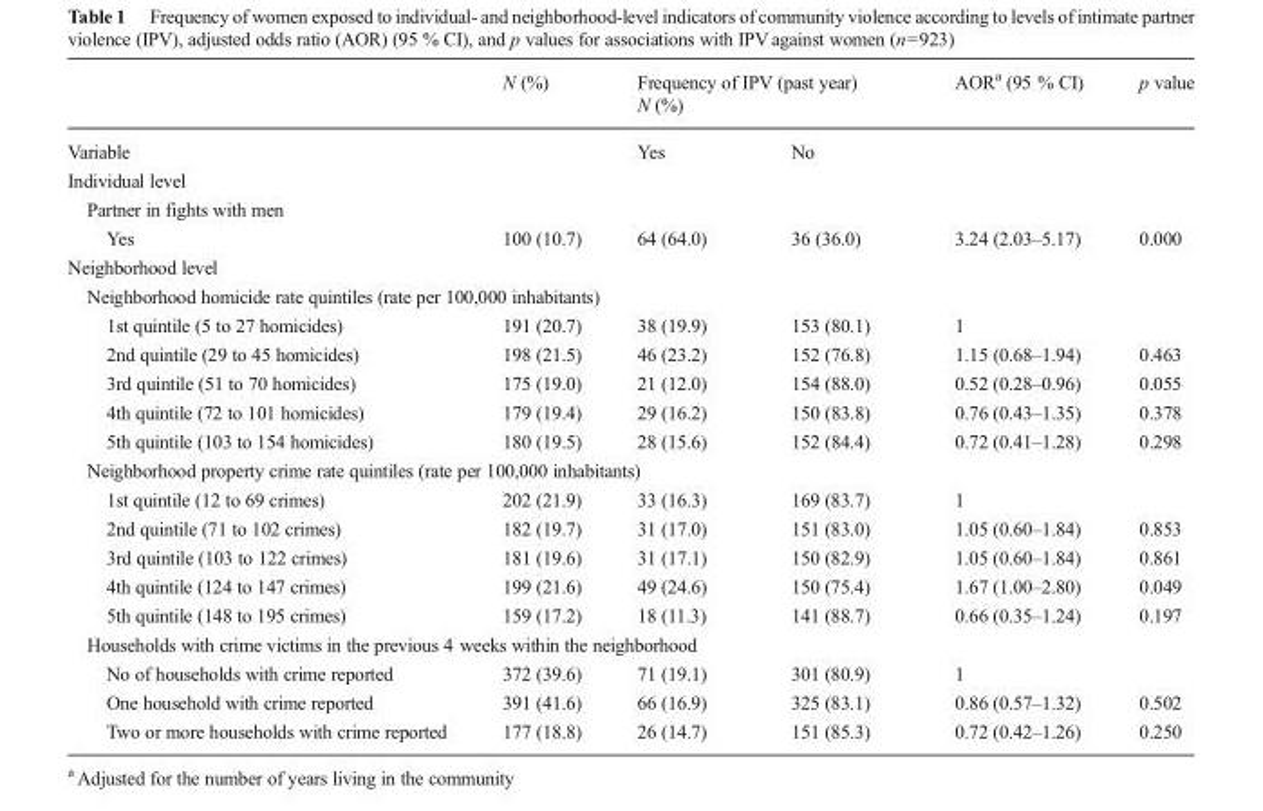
<table><thead><tr><td rowspan="2">Variable</td><td rowspan="2">N (%)</td><td colspan="2">Frequency of IPV (past year) N (%)</td><td rowspan="2">AOR<sup>a</sup> (95 % CI)</td><td rowspan="2">p value</td></tr><tr><td>Yes</td><td>No</td></tr></thead><tbody><tr><td colspan="6">Individual level</td></tr><tr><td colspan="6">Partner in fights with men</td></tr><tr><td>Yes</td><td>100 (10.7)</td><td>64 (64.0)</td><td>36 (36.0)</td><td>3.24 (2.03–5.17)</td><td>0.000</td></tr><tr><td colspan="6">Neighborhood level</td></tr><tr><td colspan="6">Neighborhood homicide rate quintiles (rate per 100,000 inhabitants)</td></tr><tr><td>1st quintile (5 to 27 homicides)</td><td>191 (20.7)</td><td>38 (19.9)</td><td>153 (80.1)</td><td>1</td><td></td></tr><tr><td>2nd quintile (29 to 45 homicides)</td><td>198 (21.5)</td><td>46 (23.2)</td><td>152 (76.8)</td><td>1.15 (0.68–1.94)</td><td>0.463</td></tr><tr><td>3rd quintile (51 to 70 homicides)</td><td>175 (19.0)</td><td>21 (12.0)</td><td>154 (88.0)</td><td>0.52 (0.28–0.96)</td><td>0.055</td></tr><tr><td>4th quintile (72 to 101 homicides)</td><td>179 (19.4)</td><td>29 (16.2)</td><td>150 (83.8)</td><td>0.76 (0.43–1.35)</td><td>0.378</td></tr><tr><td>5th quintile (103 to 154 homicides)</td><td>180 (19.5)</td><td>28 (15.6)</td><td>152 (84.4)</td><td>0.72 (0.41–1.28)</td><td>0.298</td></tr><tr><td colspan="6">Neighborhood property crime rate quintiles (rate per 100,000 inhabitants)</td></tr><tr><td>1st quintile (12 to 69 crimes)</td><td>202 (21.9)</td><td>33 (16.3)</td><td>169 (83.7)</td><td>1</td><td></td></tr><tr><td>2nd quintile (71 to 102 crimes)</td><td>182 (19.7)</td><td>31 (17.0)</td><td>151 (83.0)</td><td>1.05 (0.60–1.84)</td><td>0.853</td></tr><tr><td>3rd quintile (103 to 122 crimes)</td><td>181 (19.6)</td><td>31 (17.1)</td><td>150 (82.9)</td><td>1.05 (0.60–1.84)</td><td>0.861</td></tr><tr><td>4th quintile (124 to 147 crimes)</td><td>199 (21.6)</td><td>49 (24.6)</td><td>150 (75.4)</td><td>1.67 (1.00–2.80)</td><td>0.049</td></tr><tr><td>5th quintile (148 to 195 crimes)</td><td>159 (17.2)</td><td>18 (11.3)</td><td>141 (88.7)</td><td>0.66 (0.35–1.24)</td><td>0.197</td></tr><tr><td colspan="6">Households with crime victims in the previous 4 weeks within the neighborhood</td></tr><tr><td>No of households with crime reported</td><td>372 (39.6)</td><td>71 (19.1)</td><td>301 (80.9)</td><td>1</td><td></td></tr><tr><td>One household with crime reported</td><td>391 (41.6)</td><td>66 (16.9)</td><td>325 (83.1)</td><td>0.86 (0.57–1.32)</td><td>0.502</td></tr><tr><td>Two or more households with crime reported</td><td>177 (18.8)</td><td>26 (14.7)</td><td>151 (85.3)</td><td>0.72 (0.42–1.26)</td><td>0.250</td></tr></tbody></table>